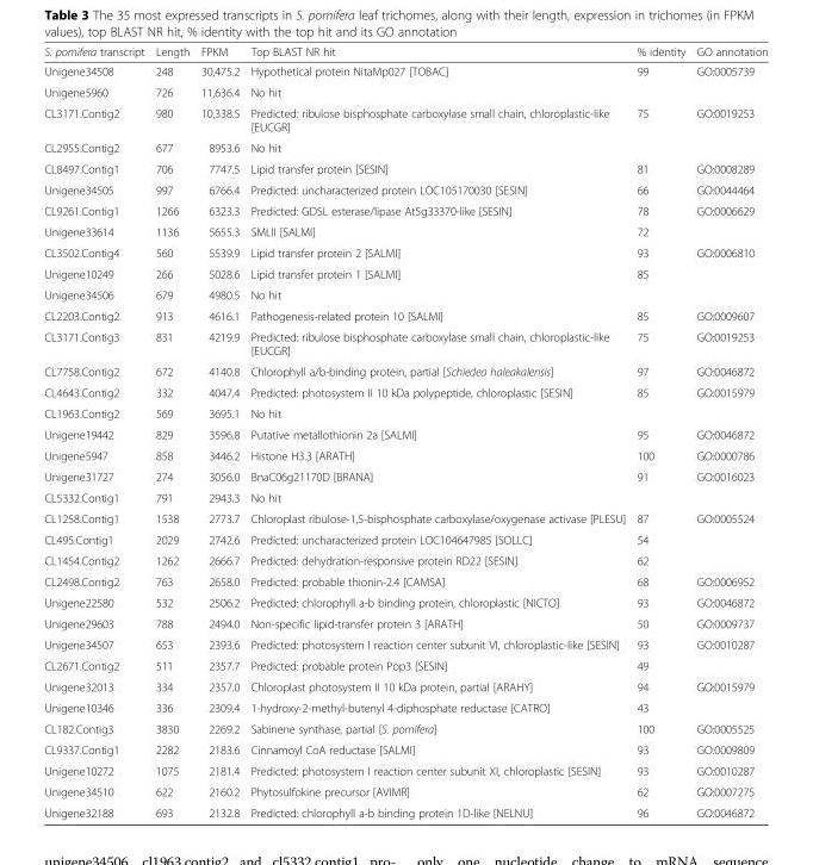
<table><thead><tr><td>S. pomifera transcript</td><td>Length</td><td>FPKM</td><td>Top BLAST NR hit</td><td>% identity</td><td>GO annotation</td></tr></thead><tbody><tr><td>Unigene34508</td><td>248</td><td>30,475.2</td><td>Hypothetical protein NitaMp027 [TOBAC]</td><td>99</td><td>GO:0005739</td></tr><tr><td>Unigene5960</td><td>726</td><td>11,636.4</td><td>No hit</td><td></td><td></td></tr><tr><td>CL3171.Contig2</td><td>980</td><td>10,338.5</td><td>Predicted: ribulose bisphosphate carboxylase small chain, chloroplastic-like [EUCGR]</td><td>75</td><td>GO:0019253</td></tr><tr><td>CL2955.Contig2</td><td>677</td><td>8953.6</td><td>No hit</td><td></td><td></td></tr><tr><td>CL8497.Contig1</td><td>706</td><td>7747.5</td><td>Lipid transfer protein [SESIN]</td><td>81</td><td>GO:0008289</td></tr><tr><td>Unigene34505</td><td>997</td><td>6766.4</td><td>Predicted: uncharacterized protein LOC105170030 [SESIN]</td><td>66</td><td>GO:0044464</td></tr><tr><td>CL9261.Contig1</td><td>1266</td><td>6323.3</td><td>Predicted: GDSL esterase/lipase At5g33370-like [SESIN]</td><td>78</td><td>GO:0006629</td></tr><tr><td>Unigene33614</td><td>1136</td><td>5655.3</td><td>SMLII [SALMI]</td><td>72</td><td></td></tr><tr><td>CL3502.Contig4</td><td>560</td><td>5539.9</td><td>Lipid transfer protein 2 [SALMI]</td><td>93</td><td>GO:0006810</td></tr><tr><td>Unigene10249</td><td>266</td><td>5028.6</td><td>Lipid transfer protein 1 [SALMI]</td><td>85</td><td></td></tr><tr><td>Unigene34506</td><td>679</td><td>4980.5</td><td>No hit</td><td></td><td></td></tr><tr><td>CL2203.Contig2</td><td>913</td><td>4616.1</td><td>Pathogenesis-related protein 10 [SALMI]</td><td>85</td><td>GO:0009607</td></tr><tr><td>CL3171.Contig3</td><td>831</td><td>4219.9</td><td>Predicted: ribulose bisphosphate carboxylase small chain, chloroplastic-like [EUCGR]</td><td>75</td><td>GO:0019253</td></tr><tr><td>CL7758.Contig2</td><td>672</td><td>4140.8</td><td>Chlorophyll a/b-binding protein, partial [Schiedea haleakalensis]</td><td>97</td><td>GO:0046872</td></tr><tr><td>CL4643.Contig2</td><td>332</td><td>4047.4</td><td>Predicted: photosystem II 10 kDa polypeptide, chloroplastic [SESIN]</td><td>85</td><td>GO:0015979</td></tr><tr><td>CL1963.Contig2</td><td>569</td><td>3695.1</td><td>No hit</td><td></td><td></td></tr><tr><td>Unigene19442</td><td>829</td><td>3596.8</td><td>Putative metallothionin 2a [SALMI]</td><td>95</td><td>GO:0046872</td></tr><tr><td>Unigene5947</td><td>858</td><td>3446.2</td><td>Histone H3.3 [ARATH]</td><td>100</td><td>GO:0000786</td></tr><tr><td>Unigene31727</td><td>274</td><td>3056.0</td><td>BnaC06g21170D [BRANA]</td><td>91</td><td>GO:0016023</td></tr><tr><td>CL5332.Contig1</td><td>791</td><td>2943.3</td><td>No hit</td><td></td><td></td></tr><tr><td>CL1258.Contig1</td><td>1538</td><td>2773.7</td><td>Chloroplast ribulose-1,5-bisphosphate carboxylase/oxygenase activase [PLESU]</td><td>87</td><td>GO:0005524</td></tr><tr><td>CL495.Contig1</td><td>2029</td><td>2742.6</td><td>Predicted: uncharacterized protein LOC104647985 [SOLLC]</td><td>54</td><td></td></tr><tr><td>CL1454.Contig2</td><td>1262</td><td>2666.7</td><td>Predicted: dehydration-responsive protein RD22 [SESIN]</td><td>62</td><td></td></tr><tr><td>CL2498.Contig2</td><td>763</td><td>2658.0</td><td>Predicted: probable thionin-2.4 [CAMSA]</td><td>68</td><td>GO:0006952</td></tr><tr><td>Unigene22580</td><td>532</td><td>2506.2</td><td>Predicted: chlorophyll a-b binding protein, chloroplastic [NICTO]</td><td>93</td><td>GO:0046872</td></tr><tr><td>Unigene29603</td><td>788</td><td>2494.0</td><td>Non-specific lipid-transfer protein 3 [ARATH]</td><td>50</td><td>GO:0009737</td></tr><tr><td>Unigene34507</td><td>653</td><td>2393.6</td><td>Predicted: photosystem I reaction center subunit VI, chloroplastic-like [SESIN]</td><td>93</td><td>GO:0010287</td></tr><tr><td>CL2671.Contig2</td><td>511</td><td>2357.7</td><td>Predicted: probable protein Pop3 [SESIN]</td><td>49</td><td></td></tr><tr><td>Unigene32013</td><td>334</td><td>2357.0</td><td>Chloroplast photosystem II 10 kDa protein, partial [ARAHY]</td><td>94</td><td>GO:0015979</td></tr><tr><td>Unigene10346</td><td>336</td><td>2309.4</td><td>1-hydroxy-2-methyl-butenyl 4-diphosphate reductase [CATRO]</td><td>43</td><td></td></tr><tr><td>CL182.Contig3</td><td>3830</td><td>2269.2</td><td>Sabinene synthase, partial [S. pomifera]</td><td>100</td><td>GO:0005525</td></tr><tr><td>CL9337.Contig1</td><td>2282</td><td>2183.6</td><td>Cinnamoyl CoA reductase [SALMI]</td><td>93</td><td>GO:0009809</td></tr><tr><td>Unigene10272</td><td>1075</td><td>2181.4</td><td>Predicted: photosystem I reaction center subunit XI, chloroplastic [SESIN]</td><td>93</td><td>GO:0010287</td></tr><tr><td>Unigene34510</td><td>622</td><td>2160.2</td><td>Phytosulfokine precursor [AVIMR]</td><td>62</td><td>GO:0007275</td></tr><tr><td>Unigene32188</td><td>693</td><td>2132.8</td><td>Predicted: chlorophyll a-b binding protein 1D-like [NELNU]</td><td>96</td><td>GO:0046872</td></tr></tbody></table>